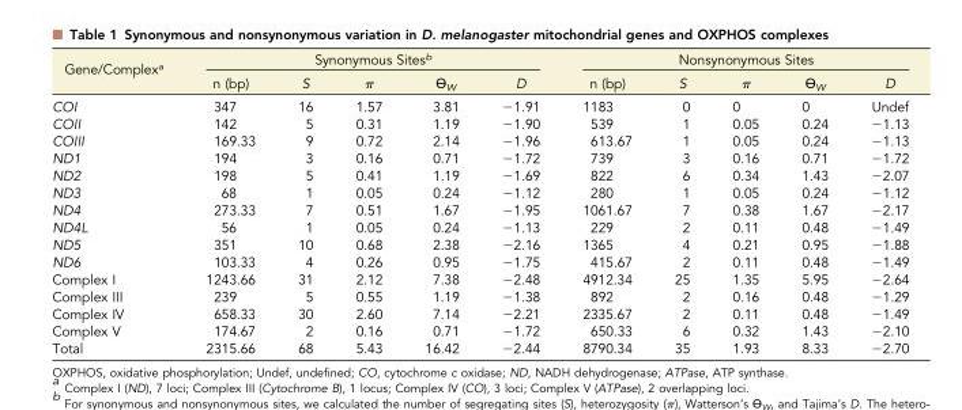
<table><thead><tr><td rowspan="2">Gene/Complex<sup>a</sup></td><td colspan="5">Synonymous Sites<sup>b</sup></td><td colspan="5">Nonsynonymous Sites</td></tr><tr><td>n (bp)</td><td>S</td><td>π</td><td>Ө<sub>W</sub></td><td>D</td><td>n (bp)</td><td>S</td><td>π</td><td>Ө<sub>W</sub></td><td>D</td></tr></thead><tbody><tr><td>COI</td><td>347</td><td>16</td><td>1.57</td><td>3.81</td><td>−1.91</td><td>1183</td><td>0</td><td>0</td><td>0</td><td>Undef</td></tr><tr><td>COII</td><td>142</td><td>5</td><td>0.31</td><td>1.19</td><td>−1.90</td><td>539</td><td>1</td><td>0.05</td><td>0.24</td><td>−1.13</td></tr><tr><td>COIII</td><td>169.33</td><td>9</td><td>0.72</td><td>2.14</td><td>−1.96</td><td>613.67</td><td>1</td><td>0.05</td><td>0.24</td><td>−1.13</td></tr><tr><td>ND1</td><td>194</td><td>3</td><td>0.16</td><td>0.71</td><td>−1.72</td><td>739</td><td>3</td><td>0.16</td><td>0.71</td><td>−1.72</td></tr><tr><td>ND2</td><td>198</td><td>5</td><td>0.41</td><td>1.19</td><td>−1.69</td><td>822</td><td>6</td><td>0.34</td><td>1.43</td><td>−2.07</td></tr><tr><td>ND3</td><td>68</td><td>1</td><td>0.05</td><td>0.24</td><td>−1.12</td><td>280</td><td>1</td><td>0.05</td><td>0.24</td><td>−1.12</td></tr><tr><td>ND4</td><td>273.33</td><td>7</td><td>0.51</td><td>1.67</td><td>−1.95</td><td>1061.67</td><td>7</td><td>0.38</td><td>1.67</td><td>−2.17</td></tr><tr><td>ND4L</td><td>56</td><td>1</td><td>0.05</td><td>0.24</td><td>−1.13</td><td>229</td><td>2</td><td>0.11</td><td>0.48</td><td>−1.49</td></tr><tr><td>ND5</td><td>351</td><td>10</td><td>0.68</td><td>2.38</td><td>−2.16</td><td>1365</td><td>4</td><td>0.21</td><td>0.95</td><td>−1.88</td></tr><tr><td>ND6</td><td>103.33</td><td>4</td><td>0.26</td><td>0.95</td><td>−1.75</td><td>415.67</td><td>2</td><td>0.11</td><td>0.48</td><td>−1.49</td></tr><tr><td>Complex I</td><td>1243.66</td><td>31</td><td>2.12</td><td>7.38</td><td>−2.48</td><td>4912.34</td><td>25</td><td>1.35</td><td>5.95</td><td>−2.64</td></tr><tr><td>Complex III</td><td>239</td><td>5</td><td>0.55</td><td>1.19</td><td>−1.38</td><td>892</td><td>2</td><td>0.16</td><td>0.48</td><td>−1.29</td></tr><tr><td>Complex IV</td><td>658.33</td><td>30</td><td>2.60</td><td>7.14</td><td>−2.21</td><td>2335.67</td><td>2</td><td>0.11</td><td>0.48</td><td>−1.49</td></tr><tr><td>Complex V</td><td>174.67</td><td>2</td><td>0.16</td><td>0.71</td><td>−1.72</td><td>650.33</td><td>6</td><td>0.32</td><td>1.43</td><td>−2.10</td></tr><tr><td>Total</td><td>2315.66</td><td>68</td><td>5.43</td><td>16.42</td><td>−2.44</td><td>8790.34</td><td>35</td><td>1.93</td><td>8.33</td><td>−2.70</td></tr></tbody></table>